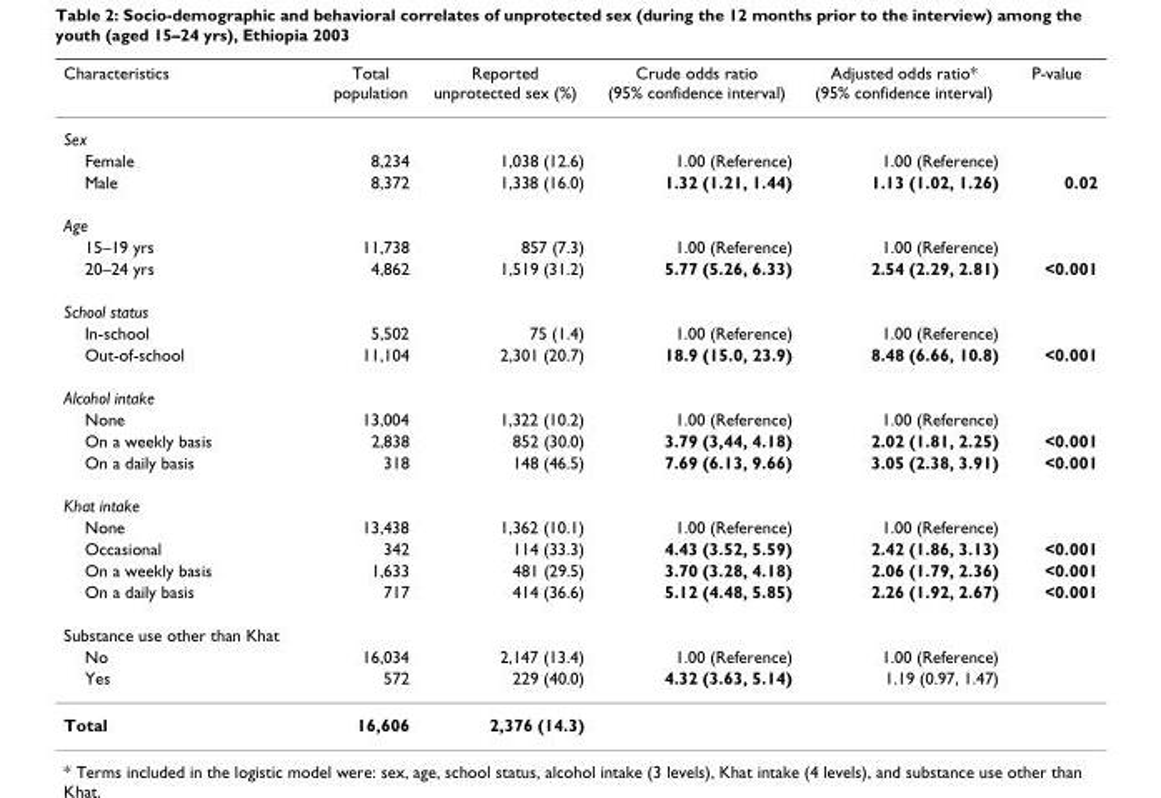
<table><thead><tr><td>Characteristics</td><td>Total population</td><td>Reported unprotected sex (%)</td><td>Crude odds ratio (95% confidence interval)</td><td>Adjusted odds ratio* (95% confidence interval)</td><td>P-value</td></tr></thead><tbody><tr><td colspan="6">Sex</td></tr><tr><td>Female</td><td>8,234</td><td>1,038 (12.6)</td><td>1.00 (Reference)</td><td>1.00 (Reference)</td><td></td></tr><tr><td>Male</td><td>8,372</td><td>1,338 (16.0)</td><td>1.32 (1.21, 1.44)</td><td>1.13 (1.02, 1.26)</td><td>0.02</td></tr><tr><td colspan="6">Age</td></tr><tr><td>15–19 yrs</td><td>11,738</td><td>857 (7.3)</td><td>1.00 (Reference)</td><td>1.00 (Reference)</td><td></td></tr><tr><td>20–24 yrs</td><td>4,862</td><td>1,519 (31.2)</td><td>5.77 (5.26, 6.33)</td><td>2.54 (2.29, 2.81)</td><td>&lt;0.001</td></tr><tr><td colspan="6">School status</td></tr><tr><td>In-school</td><td>5,502</td><td>75 (1.4)</td><td>1.00 (Reference)</td><td>1.00 (Reference)</td><td></td></tr><tr><td>Out-of-school</td><td>11,104</td><td>2,301 (20.7)</td><td>18.9 (15.0, 23.9)</td><td>8.48 (6.66, 10.8)</td><td>&lt;0.001</td></tr><tr><td colspan="6">Alcohol intake</td></tr><tr><td>None</td><td>13,004</td><td>1,322 (10.2)</td><td>1.00 (Reference)</td><td>1.00 (Reference)</td><td></td></tr><tr><td>On a weekly basis</td><td>2,838</td><td>852 (30.0)</td><td>3.79 (3,44, 4.18)</td><td>2.02 (1.81, 2.25)</td><td>&lt;0.001</td></tr><tr><td>On a daily basis</td><td>318</td><td>148 (46.5)</td><td>7.69 (6.13, 9.66)</td><td>3.05 (2.38, 3.91)</td><td>&lt;0.001</td></tr><tr><td colspan="6">Khat intake</td></tr><tr><td>None</td><td>13,438</td><td>1,362 (10.1)</td><td>1.00 (Reference)</td><td>1.00 (Reference)</td><td></td></tr><tr><td>Occasional</td><td>342</td><td>114 (33.3)</td><td>4.43 (3.52, 5.59)</td><td>2.42 (1.86, 3.13)</td><td>&lt;0.001</td></tr><tr><td>On a weekly basis</td><td>1,633</td><td>481 (29.5)</td><td>3.70 (3.28, 4.18)</td><td>2.06 (1.79, 2.36)</td><td>&lt;0.001</td></tr><tr><td>On a daily basis</td><td>717</td><td>414 (36.6)</td><td>5.12 (4.48, 5.85)</td><td>2.26 (1.92, 2.67)</td><td>&lt;0.001</td></tr><tr><td colspan="6">Substance use other than Khat</td></tr><tr><td>No</td><td>16,034</td><td>2,147 (13.4)</td><td>1.00 (Reference)</td><td>1.00 (Reference)</td><td></td></tr><tr><td>Yes</td><td>572</td><td>229 (40.0)</td><td>4.32 (3.63, 5.14)</td><td>1.19 (0.97, 1.47)</td><td></td></tr><tr><td>Total</td><td>16,606</td><td>2,376 (14.3)</td><td></td><td></td><td></td></tr></tbody></table>